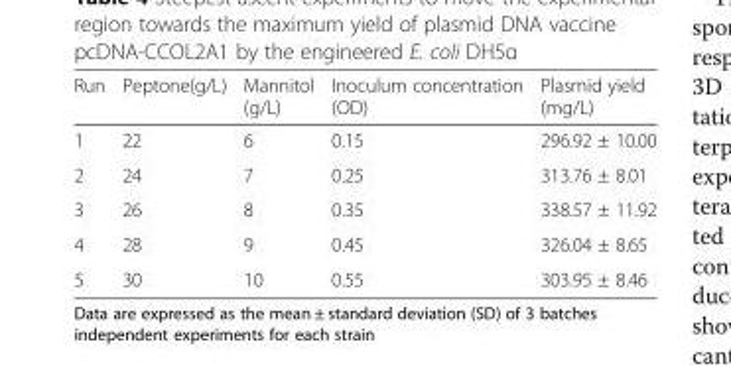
<table><thead><tr><td>Run</td><td>Peptone(g/L)</td><td>Mannitol (g/L)</td><td>Inoculum concentration (OD)</td><td>Plasmid yield (mg/L)</td></tr></thead><tbody><tr><td>1</td><td>22</td><td>6</td><td>0.15</td><td>296.92 ± 10.00</td></tr><tr><td>2</td><td>24</td><td>7</td><td>0.25</td><td>313.76 ± 8.01</td></tr><tr><td>3</td><td>26</td><td>8</td><td>0.35</td><td>338.57 ± 11.92</td></tr><tr><td>4</td><td>28</td><td>9</td><td>0.45</td><td>326.04 ± 8.65</td></tr><tr><td>5</td><td>30</td><td>10</td><td>0.55</td><td>303.95 ± 8.46</td></tr></tbody></table>